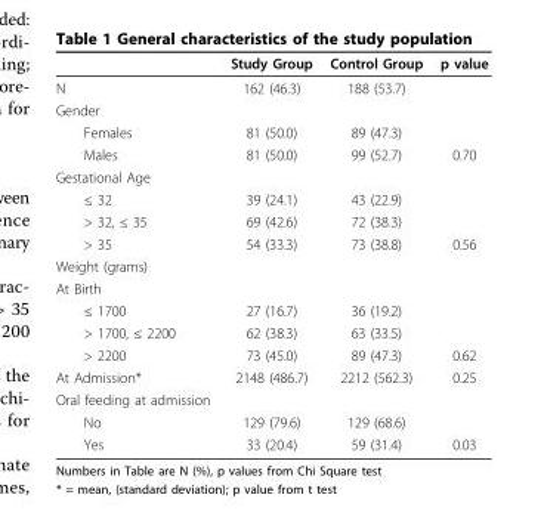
<table><thead><tr><td></td><td>Study Group</td><td>Control Group</td><td>p value</td></tr></thead><tbody><tr><td>N</td><td>162 (46.3)</td><td>188 (53.7)</td><td></td></tr><tr><td colspan="4">Gender</td></tr><tr><td>Females</td><td>81 (50.0)</td><td>89 (47.3)</td><td></td></tr><tr><td>Males</td><td>81 (50.0)</td><td>99 (52.7)</td><td>0.70</td></tr><tr><td colspan="4">Gestational Age</td></tr><tr><td>≤ 32</td><td>39 (24.1)</td><td>43 (22.9)</td><td></td></tr><tr><td>&gt; 32, ≤ 35</td><td>69 (42.6)</td><td>72 (38.3)</td><td></td></tr><tr><td>&gt; 35</td><td>54 (33.3)</td><td>73 (38.8)</td><td>0.56</td></tr><tr><td colspan="4">Weight (grams)</td></tr><tr><td colspan="4">At Birth</td></tr><tr><td>≤ 1700</td><td>27 (16.7)</td><td>36 (19.2)</td><td></td></tr><tr><td>&gt; 1700, ≤ 2200</td><td>62 (38.3)</td><td>63 (33.5)</td><td></td></tr><tr><td>&gt; 2200</td><td>73 (45.0)</td><td>89 (47.3)</td><td>0.62</td></tr><tr><td>At Admission*</td><td>2148 (486.7)</td><td>2212 (562.3)</td><td>0.25</td></tr><tr><td colspan="4">Oral feeding at admission</td></tr><tr><td>No</td><td>129 (79.6)</td><td>129 (68.6)</td><td></td></tr><tr><td>Yes</td><td>33 (20.4)</td><td>59 (31.4)</td><td>0.03</td></tr></tbody></table>